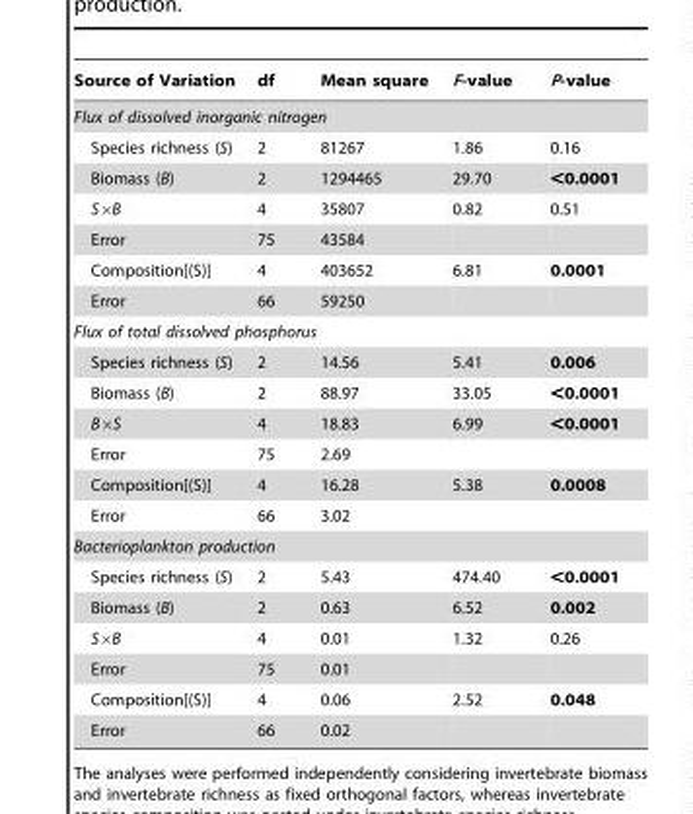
<table><thead><tr><td>Source of Variation</td><td>df</td><td>Mean square</td><td>F-value</td><td>P-value</td></tr></thead><tbody><tr><td colspan="5">Flux of dissolved inorganic nitrogen</td></tr><tr><td>Species richness (S)</td><td>2</td><td>81267</td><td>1.86</td><td>0.16</td></tr><tr><td>Biomass (B)</td><td>2</td><td>1294465</td><td>29.70</td><td>&lt;0.0001</td></tr><tr><td>S×B</td><td>4</td><td>35807</td><td>0.82</td><td>0.51</td></tr><tr><td>Error</td><td>75</td><td>43584</td><td></td><td></td></tr><tr><td>Composition[(S)]</td><td>4</td><td>403652</td><td>6.81</td><td>0.0001</td></tr><tr><td>Error</td><td>66</td><td>59250</td><td></td><td></td></tr><tr><td colspan="5">Flux of total dissolved phosphorus</td></tr><tr><td>Species richness (S)</td><td>2</td><td>14.56</td><td>5.41</td><td>0.006</td></tr><tr><td>Biomass (B)</td><td>2</td><td>88.97</td><td>33.05</td><td>&lt;0.0001</td></tr><tr><td>B×S</td><td>4</td><td>18.83</td><td>6.99</td><td>&lt;0.0001</td></tr><tr><td>Error</td><td>75</td><td>2.69</td><td></td><td></td></tr><tr><td>Composition[(S)]</td><td>4</td><td>16.28</td><td>5.38</td><td>0.0008</td></tr><tr><td>Error</td><td>66</td><td>3.02</td><td></td><td></td></tr><tr><td colspan="5">Bacterioplankton production</td></tr><tr><td>Species richness (S)</td><td>2</td><td>5.43</td><td>474.40</td><td>&lt;0.0001</td></tr><tr><td>Biomass (B)</td><td>2</td><td>0.63</td><td>6.52</td><td>0.002</td></tr><tr><td>S×B</td><td>4</td><td>0.01</td><td>1.32</td><td>0.26</td></tr><tr><td>Error</td><td>75</td><td>0.01</td><td></td><td></td></tr><tr><td>Composition[(S)]</td><td>4</td><td>0.06</td><td>2.52</td><td>0.048</td></tr><tr><td>Error</td><td>66</td><td>0.02</td><td></td><td></td></tr></tbody></table>